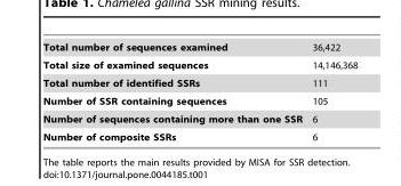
<table><tbody><tr><td>Total number of sequences examined</td><td>36,422</td></tr><tr><td>Total size of examined sequences</td><td>14,146,368</td></tr><tr><td>Total number of identified SSRs</td><td>111</td></tr><tr><td>Number of SSR containing sequences</td><td>105</td></tr><tr><td>Number of sequences containing more than one SSR</td><td>6</td></tr><tr><td>Number of composite SSRs</td><td>6</td></tr></tbody></table>